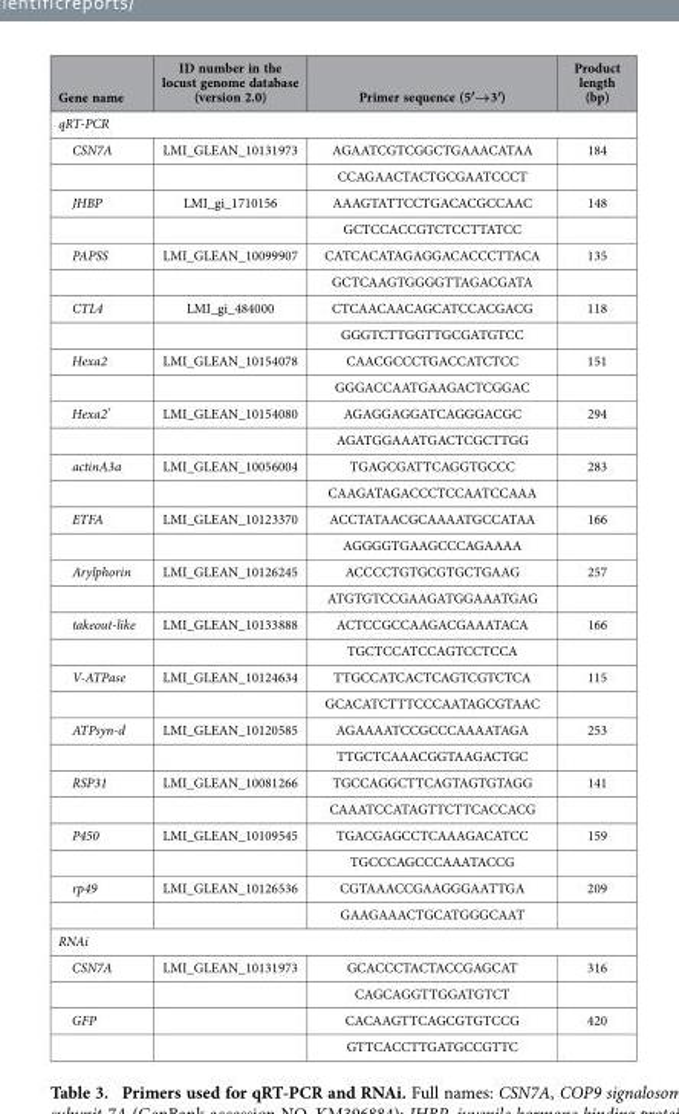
<table><thead><tr><td>Gene name</td><td>ID number in the locust genome database (version 2.0)</td><td>Primer sequence (5′→3′)</td><td>Product length (bp)</td></tr></thead><tbody><tr><td colspan="4">qRT-PCR</td></tr><tr><td rowspan="2">CSN7A</td><td>LMI_GLEAN_10131973</td><td>AGAATCGTCGGCTGAAACATAA</td><td>184</td></tr><tr><td></td><td>CCAGAACTACTGCGAATCCCT</td><td></td></tr><tr><td rowspan="2">JHBP</td><td>LMI_gi_1710156</td><td>AAAGTATTCCTGACACGCCAAC</td><td>148</td></tr><tr><td></td><td>GCTCCACCGTCTCCTTATCC</td><td></td></tr><tr><td rowspan="2">PAPSS</td><td>LMI_GLEAN_10099907</td><td>CATCACATAGAGGACACCCTTACA</td><td>135</td></tr><tr><td></td><td>GCTCAAGTGGGGTTAGACGATA</td><td></td></tr><tr><td rowspan="2">CTL4</td><td>LMI_gi_484000</td><td>CTCAACAACAGCATCCACGACG</td><td>118</td></tr><tr><td></td><td>GGGTCTTGGTTGCGATGTCC</td><td></td></tr><tr><td rowspan="2">Hexa2</td><td>LMI_GLEAN_10154078</td><td>CAACGCCCTGACCATCTCC</td><td>151</td></tr><tr><td></td><td>GGGACCAATGAAGACTCGGAC</td><td></td></tr><tr><td rowspan="2">Hexa2*</td><td>LMI_GLEAN_10154080</td><td>AGAGGAGGATCAGGGACGC</td><td>294</td></tr><tr><td></td><td>AGATGGAAATGACTCGCTTGG</td><td></td></tr><tr><td rowspan="2">actinA3a</td><td>LMI_GLEAN_10056004</td><td>TGAGCGATTCAGGTGCCC</td><td>283</td></tr><tr><td></td><td>CAAGATAGACCCTCCAATCCAAA</td><td></td></tr><tr><td rowspan="2">ETFA</td><td>LMI_GLEAN_10123370</td><td>ACCTATAACGCAAAATGCCATAA</td><td>166</td></tr><tr><td></td><td>AGGGGTGAAGCCCAGAAAA</td><td></td></tr><tr><td rowspan="2">Arylphorin</td><td>LMI_GLEAN_10126245</td><td>ACCCCTGTGCGTGCTGAAG</td><td>257</td></tr><tr><td></td><td>ATGTGTCCGAAGATGGAAATGAG</td><td></td></tr><tr><td rowspan="2">takeout-like</td><td>LMI_GLEAN_10133888</td><td>ACTCCGCCAAGACGAAATACA</td><td>166</td></tr><tr><td></td><td>TGCTCCATCCAGTCCTCCA</td><td></td></tr><tr><td rowspan="2">V-ATPase</td><td>LMI_GLEAN_10124634</td><td>TTGCCATCACTCAGTCGTCTCA</td><td>115</td></tr><tr><td></td><td>GCACATCTTTCCCAATAGCGTAAC</td><td></td></tr><tr><td rowspan="2">ATPsyn-d</td><td>LMI_GLEAN_10120585</td><td>AGAAAATCCGCCCAAAATAGA</td><td>253</td></tr><tr><td></td><td>TTGCTCAAACGGTAAGACTGC</td><td></td></tr><tr><td rowspan="2">RSP31</td><td>LMI_GLEAN_10081266</td><td>TGCCAGGCTTCAGTAGTGTAGG</td><td>141</td></tr><tr><td></td><td>CAAATCCATAGTTCTTCACCACG</td><td></td></tr><tr><td rowspan="2">P450</td><td>LMI_GLEAN_10109545</td><td>TGACGAGCCTCAAAGACATCC</td><td>159</td></tr><tr><td></td><td>TGCCCAGCCCAAATACCG</td><td></td></tr><tr><td rowspan="2">rp49</td><td>LMI_GLEAN_10126536</td><td>CGTAAACCGAAGGGAATTGA</td><td>209</td></tr><tr><td></td><td>GAAGAAACTGCATGGGCAAT</td><td></td></tr><tr><td colspan="4">RNAi</td></tr><tr><td rowspan="2">CSN7A</td><td>LMI_GLEAN_10131973</td><td>GCACCCTACTACCGAGCAT</td><td>316</td></tr><tr><td></td><td>CAGCAGGTTGGATGTCT</td><td></td></tr><tr><td rowspan="2">GFP</td><td></td><td>CACAAGTTCAGCGTGTCCG</td><td>420</td></tr><tr><td></td><td>GTTCACCTTGATGCCGTTC</td><td></td></tr></tbody></table>